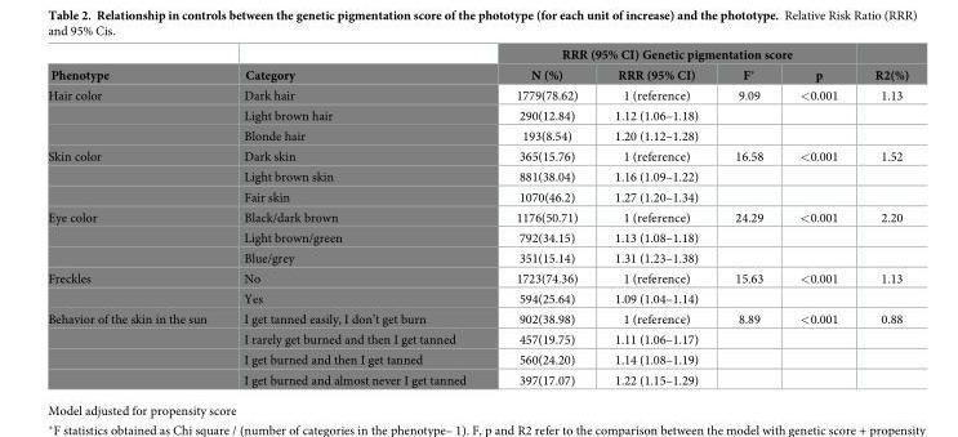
<table><thead><tr><td rowspan="2">Phenotype</td><td rowspan="2">Category</td><td colspan="4">RRR (95% CI) Genetic pigmentation score</td><td rowspan="2">R2(%)</td></tr><tr><td>N (%)</td><td>RRR (95% CI)</td><td>F*</td><td>p</td></tr></thead><tbody><tr><td rowspan="3">Hair color</td><td>Dark hair</td><td>1779(78.62)</td><td>1 (reference)</td><td>9.09</td><td>&lt;0.001</td><td>1.13</td></tr><tr><td>Light brown hair</td><td>290(12.84)</td><td>1.12 (1.06–1.18)</td><td></td><td></td><td></td></tr><tr><td>Blonde hair</td><td>193(8.54)</td><td>1.20 (1.12–1.28)</td><td></td><td></td><td></td></tr><tr><td rowspan="3">Skin color</td><td>Dark skin</td><td>365(15.76)</td><td>1 (reference)</td><td>16.58</td><td>&lt;0.001</td><td>1.52</td></tr><tr><td>Light brown skin</td><td>881(38.04)</td><td>1.16 (1.09–1.22)</td><td></td><td></td><td></td></tr><tr><td>Fair skin</td><td>1070(46.2)</td><td>1.27 (1.20–1.34)</td><td></td><td></td><td></td></tr><tr><td rowspan="3">Eye color</td><td>Black/dark brown</td><td>1176(50.71)</td><td>1 (reference)</td><td>24.29</td><td>&lt;0.001</td><td>2.20</td></tr><tr><td>Light brown/green</td><td>792(34.15)</td><td>1.13 (1.08–1.18)</td><td></td><td></td><td></td></tr><tr><td>Blue/grey</td><td>351(15.14)</td><td>1.31 (1.23–1.38)</td><td></td><td></td><td></td></tr><tr><td rowspan="2">Freckles</td><td>No</td><td>1723(74.36)</td><td>1 (reference)</td><td>15.63</td><td>&lt;0.001</td><td>1.13</td></tr><tr><td>Yes</td><td>594(25.64)</td><td>1.09 (1.04–1.14)</td><td></td><td></td><td></td></tr><tr><td rowspan="4">Behavior of the skin in the sun</td><td>I get tanned easily, I don’t get burn</td><td>902(38.98)</td><td>1 (reference)</td><td>8.89</td><td>&lt;0.001</td><td>0.88</td></tr><tr><td>I rarely get burned and then I get tanned</td><td>457(19.75)</td><td>1.11 (1.06–1.17)</td><td></td><td></td><td></td></tr><tr><td>I get burned and then I get tanned</td><td>560(24.20)</td><td>1.14 (1.08–1.19)</td><td></td><td></td><td></td></tr><tr><td>I get burned and almost never I get tanned</td><td>397(17.07)</td><td>1.22 (1.15–1.29)</td><td></td><td></td><td></td></tr></tbody></table>